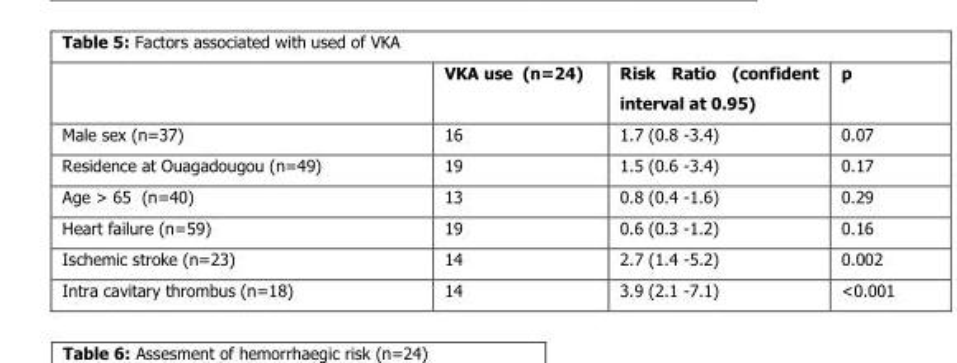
<table><thead><tr><td></td><td>VKA use (n=24)</td><td>Risk Ratio (confident interval at 0.95)</td><td>p</td></tr></thead><tbody><tr><td>Male sex (n=37)</td><td>16</td><td>1.7 (0.8 -3.4)</td><td>0.07</td></tr><tr><td>Residence at Ouagadougou (n=49)</td><td>19</td><td>1.5 (0.6 -3.4)</td><td>0.17</td></tr><tr><td>Age &gt; 65 (n=40)</td><td>13</td><td>0.8 (0.4 -1.6)</td><td>0.29</td></tr><tr><td>Heart failure (n=59)</td><td>19</td><td>0.6 (0.3 -1.2)</td><td>0.16</td></tr><tr><td>Ischemic stroke (n=23)</td><td>14</td><td>2.7 (1.4 -5.2)</td><td>0.002</td></tr><tr><td>Intra cavitary thrombus (n=18)</td><td>14</td><td>3.9 (2.1 -7.1)</td><td>&lt;0.001</td></tr></tbody></table>